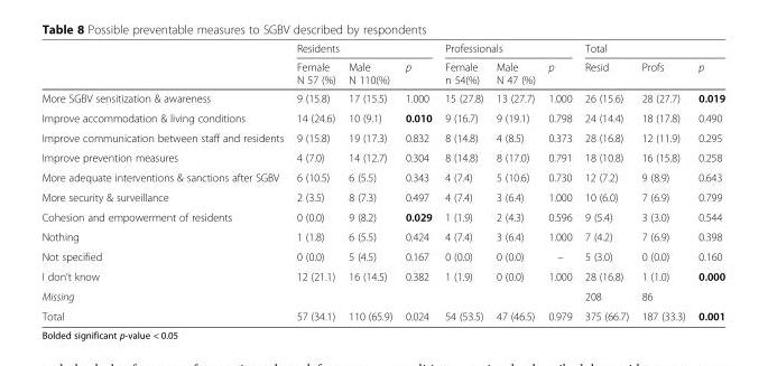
<table><thead><tr><td rowspan="2"></td><td colspan="3">Residents</td><td colspan="3">Professionals</td><td colspan="3">Total</td></tr><tr><td>Female N 57 (%)</td><td>Male N 110(%)</td><td>p</td><td>Female n 54(%)</td><td>Male N 47 (%)</td><td>p</td><td>Resid</td><td>Profs</td><td>p</td></tr></thead><tbody><tr><td>More SGBV sensitization &amp; awareness</td><td>9 (15.8)</td><td>17 (15.5)</td><td>1.000</td><td>15 (27.8)</td><td>13 (27.7)</td><td>1.000</td><td>26 (15.6)</td><td>28 (27.7)</td><td>0.019</td></tr><tr><td>Improve accommodation &amp; living conditions</td><td>14 (24.6)</td><td>10 (9.1)</td><td>0.010</td><td>9 (16.7)</td><td>9 (19.1)</td><td>0.798</td><td>24 (14.4)</td><td>18 (17.8)</td><td>0.490</td></tr><tr><td>Improve communication between staff and residents</td><td>9 (15.8)</td><td>19 (17.3)</td><td>0.832</td><td>8 (14.8)</td><td>4 (8.5)</td><td>0.373</td><td>28 (16.8)</td><td>12 (11.9)</td><td>0.295</td></tr><tr><td>Improve prevention measures</td><td>4 (7.0)</td><td>14 (12.7)</td><td>0.304</td><td>8 (14.8)</td><td>8 (17.0)</td><td>0.791</td><td>18 (10.8)</td><td>16 (15.8)</td><td>0.258</td></tr><tr><td>More adequate interventions &amp; sanctions after SGBV</td><td>6 (10.5)</td><td>6 (5.5)</td><td>0.343</td><td>4 (7.4)</td><td>5 (10.6)</td><td>0.730</td><td>12 (7.2)</td><td>9 (8.9)</td><td>0.643</td></tr><tr><td>More security &amp; surveillance</td><td>2 (3.5)</td><td>8 (7.3)</td><td>0.497</td><td>4 (7.4)</td><td>3 (6.4)</td><td>1.000</td><td>10 (6.0)</td><td>7 (6.9)</td><td>0.799</td></tr><tr><td>Cohesion and empowerment of residents</td><td>0 (0.0)</td><td>9 (8.2)</td><td>0.029</td><td>1 (1.9)</td><td>2 (4.3)</td><td>0.596</td><td>9 (5.4)</td><td>3 (3.0)</td><td>0.544</td></tr><tr><td>Nothing</td><td>1 (1.8)</td><td>6 (5.5)</td><td>0.424</td><td>4 (7.4)</td><td>3 (6.4)</td><td>1.000</td><td>7 (4.2)</td><td>7 (6.9)</td><td>0.398</td></tr><tr><td>Not specified</td><td>0 (0.0)</td><td>5 (4.5)</td><td>0.167</td><td>0 (0.0)</td><td>0 (0.0)</td><td>–</td><td>5 (3.0)</td><td>0 (0.0)</td><td>0.160</td></tr><tr><td>I don’t know</td><td>12 (21.1)</td><td>16 (14.5)</td><td>0.382</td><td>1 (1.9)</td><td>0 (0.0)</td><td>1.000</td><td>28 (16.8)</td><td>1 (1.0)</td><td>0.000</td></tr><tr><td>Missing</td><td></td><td></td><td></td><td></td><td></td><td></td><td>208</td><td>86</td><td></td></tr><tr><td>Total</td><td>57 (34.1)</td><td>110 (65.9)</td><td>0.024</td><td>54 (53.5)</td><td>47 (46.5)</td><td>0.979</td><td>375 (66.7)</td><td>187 (33.3)</td><td>0.001</td></tr></tbody></table>